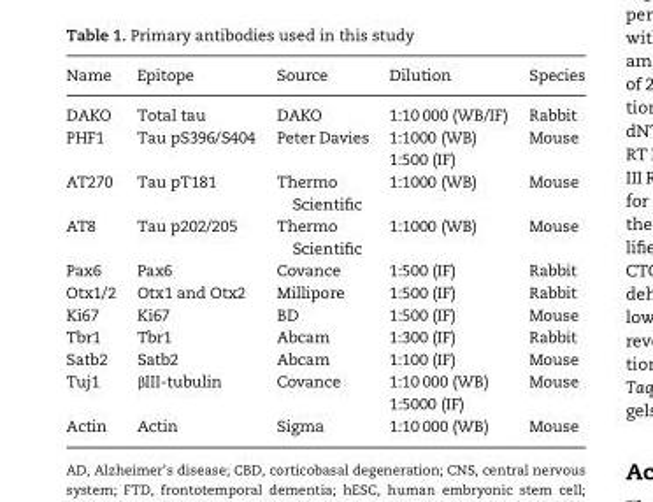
<table><thead><tr><td>Name</td><td>Epitope</td><td>Source</td><td>Dilution</td><td>Species</td></tr></thead><tbody><tr><td>DAKO</td><td>Total tau</td><td>DAKO</td><td>1:10 000 (WB/IF)</td><td>Rabbit</td></tr><tr><td>PHF1</td><td>Tau pS396/S404</td><td>Peter Davies</td><td>1:1000 (WB) 1:500 (IF)</td><td>Mouse</td></tr><tr><td>AT270</td><td>Tau pT181</td><td>Thermo Scientific</td><td>1:1000 (WB)</td><td>Mouse</td></tr><tr><td>AT8</td><td>Tau p202/205</td><td>Thermo Scientific</td><td>1:1000 (WB)</td><td>Mouse</td></tr><tr><td>Pax6</td><td>Pax6</td><td>Covance</td><td>1:500 (IF)</td><td>Rabbit</td></tr><tr><td>Otx1/2</td><td>Otx1 and Otx2</td><td>Millipore</td><td>1:500 (IF)</td><td>Rabbit</td></tr><tr><td>Ki67</td><td>Ki67</td><td>BD</td><td>1:500 (IF)</td><td>Mouse</td></tr><tr><td>Tbr1</td><td>Tbr1</td><td>Abcam</td><td>1:300 (IF)</td><td>Rabbit</td></tr><tr><td>Satb2</td><td>Satb2</td><td>Abcam</td><td>1:100 (IF)</td><td>Mouse</td></tr><tr><td>Tuj1</td><td>βIII-tubulin</td><td>Covance</td><td>1:10 000 (WB) 1:5000 (IF)</td><td>Mouse</td></tr><tr><td>Actin</td><td>Actin</td><td>Sigma</td><td>1:10 000 (WB)</td><td>Mouse</td></tr></tbody></table>